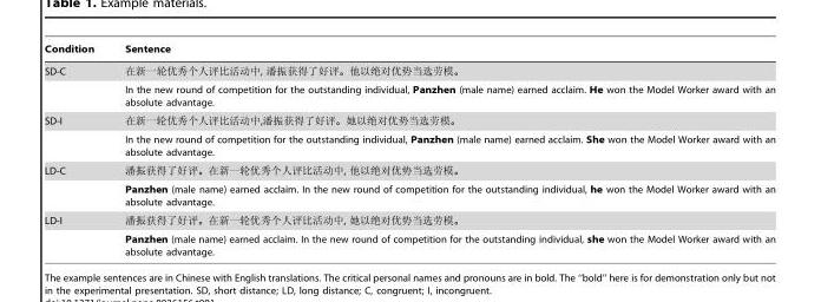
<table><thead><tr><td>Condition</td><td>Sentence</td></tr></thead><tbody><tr><td rowspan="2">SD-C</td><td>在新一轮优秀个人评比活动中, 潘振获得了好评。他以绝对优势当选劳模。</td></tr><tr><td>In the new round of competition for the outstanding individual, Panzhen (male name) earned acclaim. He won the Model Worker award with an absolute advantage.</td></tr><tr><td rowspan="2">SD-I</td><td>在新一轮优秀个人评比活动中,潘振获得了好评。她以绝对优势当选劳模。</td></tr><tr><td>In the new round of competition for the outstanding individual, Panzhen (male name) earned acclaim. She won the Model Worker award with an absolute advantage.</td></tr><tr><td rowspan="2">LD-C</td><td>潘振获得了好评。在新一轮优秀个人评比活动中, 他以绝对优势当选劳模。</td></tr><tr><td>Panzhen (male name) earned acclaim. In the new round of competition for the outstanding individual, he won the Model Worker award with an absolute advantage.</td></tr><tr><td rowspan="2">LD-I</td><td>潘振获得了好评。在新一轮优秀个人评比活动中, 她以绝对优势当选劳模。</td></tr><tr><td>Panzhen (male name) earned acclaim. In the new round of competition for the outstanding individual, she won the Model Worker award with an absolute advantage.</td></tr></tbody></table>